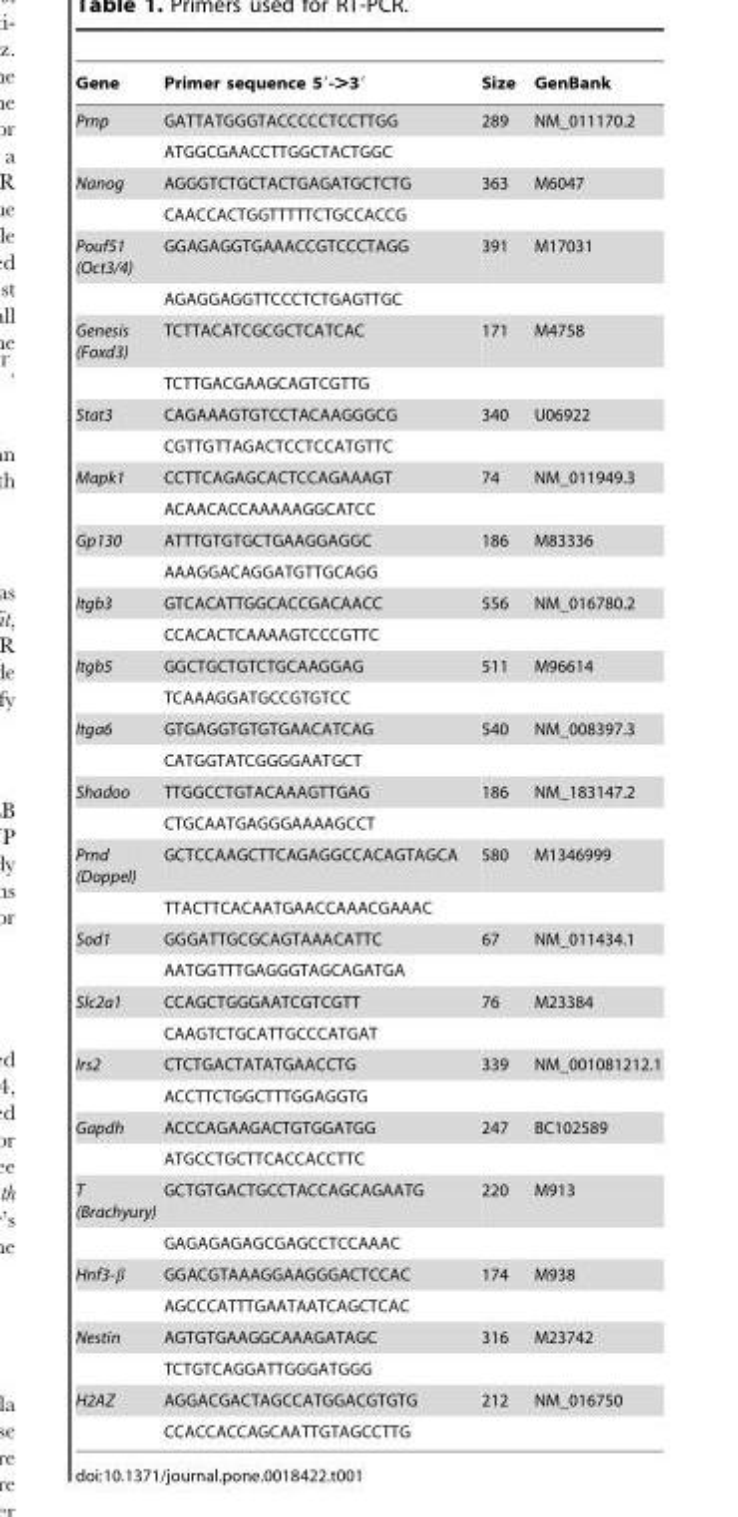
<table><thead><tr><td>Gene</td><td>Primer sequence 5′-&gt;3′</td><td>Size</td><td>GenBank</td></tr></thead><tbody><tr><td rowspan="2">Prnp</td><td>GATTATGGGTACCCCCTCCTTGG</td><td>289</td><td>NM_011170.2</td></tr><tr><td>ATGGCGAACCTTGGCTACTGGC</td><td></td><td></td></tr><tr><td rowspan="2">Nanog</td><td>AGGGTCTGCTACTGAGATGCTCTG</td><td>363</td><td>M6047</td></tr><tr><td>CAACCACTGGTTTTTCTGCCACCG</td><td></td><td></td></tr><tr><td rowspan="2">Pouf51 (Oct3/4)</td><td>GGAGAGGTGAAACCGTCCCTAGG</td><td>391</td><td>M17031</td></tr><tr><td>AGAGGAGGTTCCCTCTGAGTTGC</td><td></td><td></td></tr><tr><td rowspan="2">Genesis (Foxd3)</td><td>TCTTACATCGCGCTCATCAC</td><td>171</td><td>M4758</td></tr><tr><td>TCTTGACGAAGCAGTCGTTG</td><td></td><td></td></tr><tr><td rowspan="2">Stat3</td><td>CAGAAAGTGTCCTACAAGGGCG</td><td>340</td><td>U06922</td></tr><tr><td>CGTTGTTAGACTCCTCCATGTTC</td><td></td><td></td></tr><tr><td rowspan="2">Mapk1</td><td>CCTTCAGAGCACTCCAGAAAGT</td><td>74</td><td>NM_011949.3</td></tr><tr><td>ACAACACCAAAAAGGCATCC</td><td></td><td></td></tr><tr><td rowspan="2">Gp130</td><td>ATTTGTGTGCTGAAGGAGGC</td><td>186</td><td>M83336</td></tr><tr><td>AAAGGACAGGATGTTGCAGG</td><td></td><td></td></tr><tr><td rowspan="2">Itgb3</td><td>GTCACATTGGCACCGACAACC</td><td>556</td><td>NM_016780.2</td></tr><tr><td>CCACACTCAAAAGTCCCGTTC</td><td></td><td></td></tr><tr><td rowspan="2">Itgb5</td><td>GGCTGCTGTCTGCAAGGAG</td><td>511</td><td>M96614</td></tr><tr><td>TCAAAGGATGCCGTGTCC</td><td></td><td></td></tr><tr><td rowspan="2">Itga6</td><td>GTGAGGTGTGTGAACATCAG</td><td>540</td><td>NM_008397.3</td></tr><tr><td>CATGGTATCGGGGAATGCT</td><td></td><td></td></tr><tr><td rowspan="2">Shadoo</td><td>TTGGCCTGTACAAAGTTGAG</td><td>186</td><td>NM_183147.2</td></tr><tr><td>CTGCAATGAGGGAAAAGCCT</td><td></td><td></td></tr><tr><td rowspan="2">Prnd (Doppel)</td><td>GCTCCAAGCTTCAGAGGCCACAGTAGCA</td><td>580</td><td>M1346999</td></tr><tr><td>TTACTTCACAATGAACCAAACGAAAC</td><td></td><td></td></tr><tr><td rowspan="2">Sod1</td><td>GGGATTGCGCAGTAAACATTC</td><td>67</td><td>NM_011434.1</td></tr><tr><td>AATGGTTTGAGGGTAGCAGATGA</td><td></td><td></td></tr><tr><td rowspan="2">Slc2a1</td><td>CCAGCTGGGAATCGTCGTT</td><td>76</td><td>M23384</td></tr><tr><td>CAAGTCTGCATTGCCCATGAT</td><td></td><td></td></tr><tr><td rowspan="2">Irs2</td><td>CTCTGACTATATGAACCTG</td><td>339</td><td>NM_001081212.1</td></tr><tr><td>ACCTTCTGGCTTTGGAGGTG</td><td></td><td></td></tr><tr><td rowspan="2">Gapdh</td><td>ACCCAGAAGACTGTGGATGG</td><td>247</td><td>BC102589</td></tr><tr><td>ATGCCTGCTTCACCACCTTC</td><td></td><td></td></tr><tr><td rowspan="2">T (Brachyury)</td><td>GCTGTGACTGCCTACCAGCAGAATG</td><td>220</td><td>M913</td></tr><tr><td>GAGAGAGAGCGAGCCTCCAAAC</td><td></td><td></td></tr><tr><td rowspan="2">Hnf3-β</td><td>GGACGTAAAGGAAGGGACTCCAC</td><td>174</td><td>M938</td></tr><tr><td>AGCCCATTTGAATAATCAGCTCAC</td><td></td><td></td></tr><tr><td rowspan="2">Nestin</td><td>AGTGTGAAGGCAAAGATAGC</td><td>316</td><td>M23742</td></tr><tr><td>TCTGTCAGGATTGGGATGGG</td><td></td><td></td></tr><tr><td rowspan="2">H2AZ</td><td>AGGACGACTAGCCATGGACGTGTG</td><td>212</td><td>NM_016750</td></tr><tr><td>CCACCACCAGCAATTGTAGCCTTG</td><td></td><td></td></tr></tbody></table>